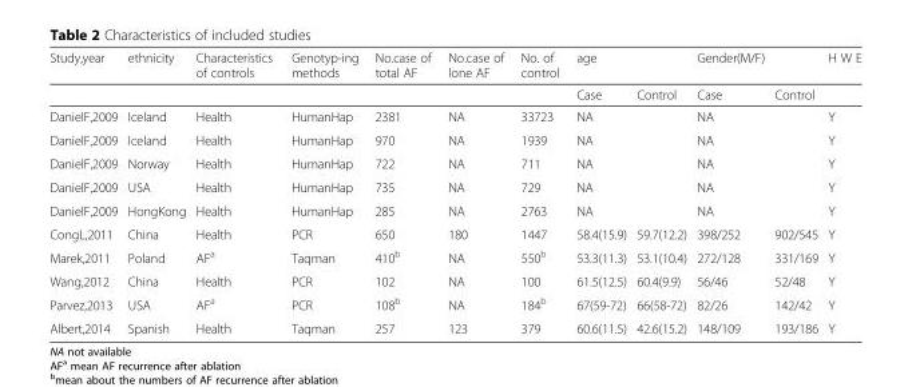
<table><thead><tr><td>Study,year</td><td>ethnicity</td><td>Characteristics of controls</td><td>Genotyp-ing methods</td><td>No.case of total AF</td><td>No.case of lone AF</td><td>No. of control</td><td>age</td><td></td><td>Gender(M/F)</td><td></td><td>H W E</td></tr></thead><tbody><tr><td></td><td></td><td></td><td></td><td></td><td></td><td></td><td>Case</td><td>Control</td><td>Case</td><td>Control</td><td></td></tr><tr><td>DanielF,2009</td><td>Iceland</td><td>Health</td><td>HumanHap</td><td>2381</td><td>NA</td><td>33723</td><td>NA</td><td></td><td>NA</td><td></td><td>Y</td></tr><tr><td>DanielF,2009</td><td>Iceland</td><td>Health</td><td>HumanHap</td><td>970</td><td>NA</td><td>1939</td><td>NA</td><td></td><td>NA</td><td></td><td>Y</td></tr><tr><td>DanielF,2009</td><td>Norway</td><td>Health</td><td>HumanHap</td><td>722</td><td>NA</td><td>711</td><td>NA</td><td></td><td>NA</td><td></td><td>Y</td></tr><tr><td>DanielF,2009</td><td>USA</td><td>Health</td><td>HumanHap</td><td>735</td><td>NA</td><td>729</td><td>NA</td><td></td><td>NA</td><td></td><td>Y</td></tr><tr><td>DanielF,2009</td><td>HongKong</td><td>Health</td><td>HumanHap</td><td>285</td><td>NA</td><td>2763</td><td>NA</td><td></td><td>NA</td><td></td><td>Y</td></tr><tr><td>CongL,2011</td><td>China</td><td>Health</td><td>PCR</td><td>650</td><td>180</td><td>1447</td><td>58.4(15.9)</td><td>59.7(12.2)</td><td>398/252</td><td>902/545</td><td>Y</td></tr><tr><td>Marek,2011</td><td>Poland</td><td>AF<sup>a</sup></td><td>Taqman</td><td>410<sup>b</sup></td><td>NA</td><td>550<sup>b</sup></td><td>53.3(11.3)</td><td>53.1(10.4)</td><td>272/128</td><td>331/169</td><td>Y</td></tr><tr><td>Wang,2012</td><td>China</td><td>Health</td><td>PCR</td><td>102</td><td>NA</td><td>100</td><td>61.5(12.5)</td><td>60.4(9.9)</td><td>56/46</td><td>52/48</td><td>Y</td></tr><tr><td>Parvez,2013</td><td>USA</td><td>AF<sup>a</sup></td><td>PCR</td><td>108<sup>b</sup></td><td>NA</td><td>184<sup>b</sup></td><td>67(59-72)</td><td>66(58-72)</td><td>82/26</td><td>142/42</td><td>Y</td></tr><tr><td>Albert,2014</td><td>Spanish</td><td>Health</td><td>Taqman</td><td>257</td><td>123</td><td>379</td><td>60.6(11.5)</td><td>42.6(15.2)</td><td>148/109</td><td>193/186</td><td>Y</td></tr></tbody></table>